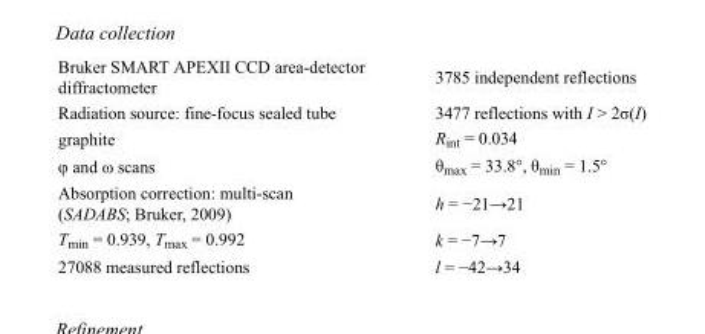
<table><tbody><tr><td>Bruker SMART APEXII CCD area-detector diffractometer</td><td>3785 independent reflections</td></tr><tr><td>Radiation source: fine-focus sealed tube</td><td>3477 reflections with I &gt; 2σ(I)</td></tr><tr><td>graphite</td><td>R<sub>int</sub> = 0.034</td></tr><tr><td>φ and ω scans</td><td>θ<sub>max</sub> = 33.8°, θ<sub>min</sub> = 1.5°</td></tr><tr><td>Absorption correction: multi-scan (SADABS; Bruker, 2009)</td><td>h = −21→21</td></tr><tr><td>T<sub>min</sub> = 0.939, T<sub>max</sub> = 0.992</td><td>k = −7→7</td></tr><tr><td>27088 measured reflections</td><td>l = −42→34</td></tr></tbody></table>